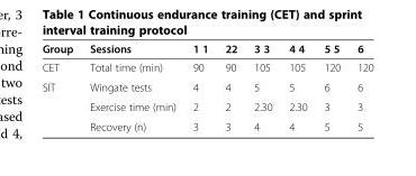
<table><thead><tr><td>Group</td><td>Sessions</td><td>1 1</td><td>22</td><td>3 3</td><td>4 4</td><td>5 5</td><td>6</td></tr></thead><tbody><tr><td>CET</td><td>Total time (min)</td><td>90</td><td>90</td><td>105</td><td>105</td><td>120</td><td>120</td></tr><tr><td rowspan="3">SIT</td><td>Wingate tests</td><td>4</td><td>4</td><td>5</td><td>5</td><td>6</td><td>6</td></tr><tr><td>Exercise time (min)</td><td>2</td><td>2</td><td>2.30</td><td>2.30</td><td>3</td><td>3</td></tr><tr><td>Recovery (n)</td><td>3</td><td>3</td><td>4</td><td>4</td><td>5</td><td>5</td></tr></tbody></table>